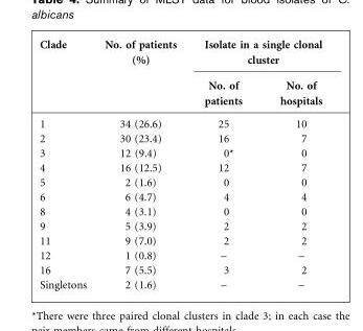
<table><thead><tr><td rowspan="2">Clade</td><td rowspan="2">No. of patients (%)</td><td colspan="2">Isolate in a single clonal cluster</td></tr><tr><td>No. of patients</td><td>No. of hospitals</td></tr></thead><tbody><tr><td>1</td><td>34 (26.6)</td><td>25</td><td>10</td></tr><tr><td>2</td><td>30 (23.4)</td><td>16</td><td>7</td></tr><tr><td>3</td><td>12 (9.4)</td><td>0*</td><td>0</td></tr><tr><td>4</td><td>16 (12.5)</td><td>12</td><td>7</td></tr><tr><td>5</td><td>2 (1.6)</td><td>0</td><td>0</td></tr><tr><td>6</td><td>6 (4.7)</td><td>4</td><td>4</td></tr><tr><td>8</td><td>4 (3.1)</td><td>0</td><td>0</td></tr><tr><td>9</td><td>5 (3.9)</td><td>2</td><td>2</td></tr><tr><td>11</td><td>9 (7.0)</td><td>2</td><td>2</td></tr><tr><td>12</td><td>1 (0.8)</td><td>–</td><td>–</td></tr><tr><td>16</td><td>7 (5.5)</td><td>3</td><td>2</td></tr><tr><td>Singletons</td><td>2 (1.6)</td><td>–</td><td>–</td></tr></tbody></table>